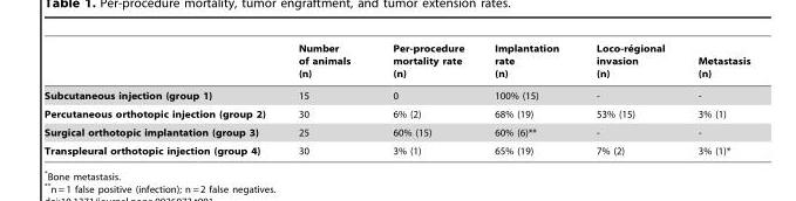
<table><thead><tr><td></td><td>Number of animals (n)</td><td>Per-procedure mortality rate (n)</td><td>Implantation rate (n)</td><td>Loco-re´gional invasion (n)</td><td>Metastasis (n)</td></tr></thead><tbody><tr><td>Subcutaneous injection (group 1)</td><td>15</td><td>0</td><td>100% (15)</td><td>-</td><td>-</td></tr><tr><td>Percutaneous orthotopic injection (group 2)</td><td>30</td><td>6% (2)</td><td>68% (19)</td><td>53% (15)</td><td>3% (1)</td></tr><tr><td>Surgical orthotopic implantation (group 3)</td><td>25</td><td>60% (15)</td><td>60% (6)**</td><td>-</td><td>-</td></tr><tr><td>Transpleural orthotopic injection (group 4)</td><td>30</td><td>3% (1)</td><td>65% (19)</td><td>7% (2)</td><td>3% (1)*</td></tr></tbody></table>